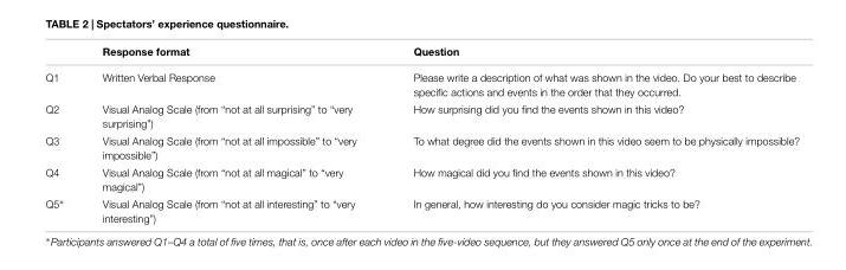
<table><thead><tr><td></td><td>Response format</td><td>Question</td></tr></thead><tbody><tr><td>Q1</td><td>Written Verbal Response</td><td>Please write a description of what was shown in the video. Do your best to describe specific actions and events in the order that they occurred.</td></tr><tr><td>Q2</td><td>Visual Analog Scale (from “not at all surprising” to “very surprising”)</td><td>How surprising did you find the events shown in this video?</td></tr><tr><td>Q3</td><td>Visual Analog Scale (from “not at all impossible” to “very impossible”)</td><td>To what degree did the events shown in this video seem to be physically impossible?</td></tr><tr><td>Q4</td><td>Visual Analog Scale (from “not at all magical” to “very magical”)</td><td>How magical did you find the events shown in this video?</td></tr><tr><td>Q5∗</td><td>Visual Analog Scale (from “not at all interesting” to “very interesting”)</td><td>In general, how interesting do you consider magic tricks to be?</td></tr></tbody></table>